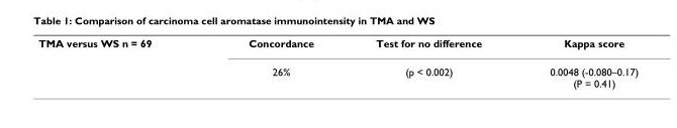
<table><tbody><tr><td rowspan="2">TMA versus WS n = 69</td><td>Concordance</td><td>Test for no difference</td><td>Kappa score</td></tr><tr><td>26%</td><td>(p &lt; 0.002)</td><td>0.0048 (-0.080–0.17) (P = 0.41)</td></tr></tbody></table>